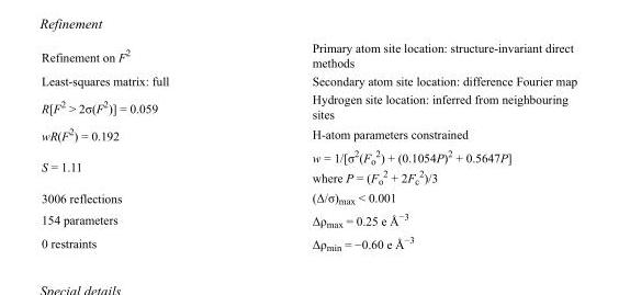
<table><tbody><tr><td>Refinement on F<sup>2</sup></td><td>Primary atom site location: structure-invariant direct methods</td></tr><tr><td>Least-squares matrix: full</td><td>Secondary atom site location: difference Fourier map</td></tr><tr><td>R[F<sup>2</sup> &gt; 2σ(F<sup>2</sup>)] = 0.059</td><td>Hydrogen site location: inferred from neighbouring sites</td></tr><tr><td>wR(F<sup>2</sup>) = 0.192</td><td>H-atom parameters constrained</td></tr><tr><td>S = 1.11</td><td>w = 1/[σ<sup>2</sup>(F<sub>o</sub> <sup>2</sup>) + (0.1054P)<sup>2</sup> + 0.5647P] where P = (F<sub>o</sub> <sup>2</sup> + 2F<sub>c</sub> <sup>2</sup>)/3</td></tr><tr><td>3006 reflections</td><td>(Δ/σ)<sub>max</sub> &lt; 0.001</td></tr><tr><td>154 parameters</td><td>Δρ<sub>max</sub> = 0.25 e Å<sup>−3</sup></td></tr><tr><td>0 restraints</td><td>Δρ<sub>min</sub> = −0.60 e Å<sup>−3</sup></td></tr></tbody></table>